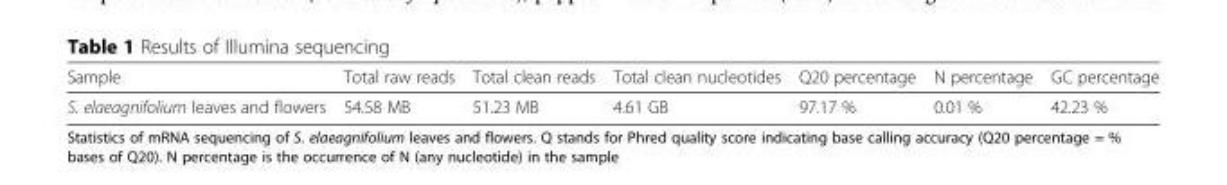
<table><thead><tr><td>Sample</td><td>Total raw reads</td><td>Total clean reads</td><td>Total clean nucleotides</td><td>Q20 percentage</td><td>N percentage</td><td>GC percentage</td></tr></thead><tbody><tr><td>S. elaeagnifolium leaves and flowers</td><td>54.58 MB</td><td>51.23 MB</td><td>4.61 GB</td><td>97.17 %</td><td>0.01 %</td><td>42.23 %</td></tr></tbody></table>